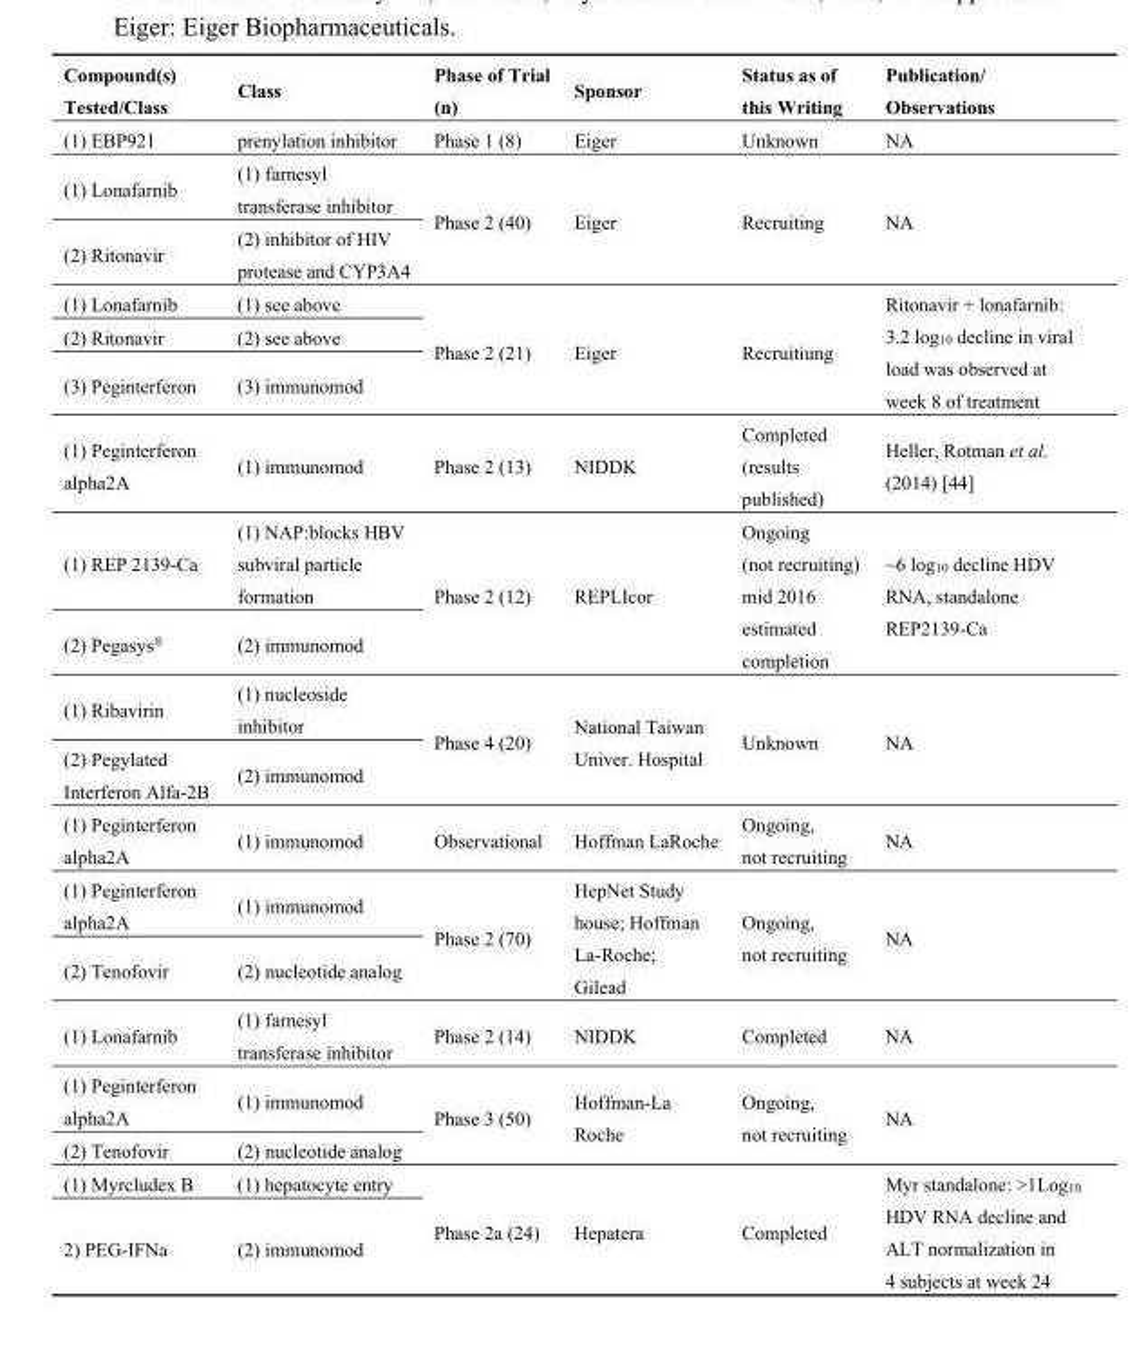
<table><thead><tr><td>Compound(s) Tested/Class</td><td>Class</td><td>Phase of Trial (n)</td><td>Sponsor</td><td>Status as of this Writing</td><td>Publication/ Observations</td></tr></thead><tbody><tr><td>(1) EBP921</td><td>prenylation inhibitor</td><td>Phase 1 (8)</td><td>Eiger</td><td>Unknown</td><td>NA</td></tr><tr><td>(1) Lonafarnib</td><td>(1) farnesyl transferase inhibitor</td><td rowspan="2">Phase 2 (40)</td><td rowspan="2">Eiger</td><td rowspan="2">Recruiting</td><td rowspan="2">NA</td></tr><tr><td>(2) Ritonavir</td><td>(2) inhibitor of HIV protease and CYP3A4</td></tr><tr><td>(1) Lonafarnib</td><td>(1) see above</td><td rowspan="3">Phase 2 (21)</td><td rowspan="3">Eiger</td><td rowspan="3">Recruitiung</td><td rowspan="3">Ritonavir + lonafarnib: 3.2 log<sub>10</sub> decline in viral load was observed at week 8 of treatment</td></tr><tr><td>(2) Ritonavir</td><td>(2) see above</td></tr><tr><td>(3) Peginterferon</td><td>(3) immunomod</td></tr><tr><td>(1) Peginterferon alpha2A</td><td>(1) immunomod</td><td>Phase 2 (13)</td><td>NIDDK</td><td>Completed (results published)</td><td>Heller, Rotman et al. (2014) [44]</td></tr><tr><td>(1) REP 2139-Ca</td><td>(1) NAP:blocks HBV subviral particle formation</td><td rowspan="2">Phase 2 (12)</td><td rowspan="2">REPLIcor</td><td rowspan="2">Ongoing (not recruiting) mid 2016 estimated completion</td><td rowspan="2">~6 log<sub>10</sub> decline HDV RNA, standalone REP2139-Ca</td></tr><tr><td>(2) Pegasys<sup>®</sup></td><td>(2) immunomod</td></tr><tr><td>(1) Ribavirin</td><td>(1) nucleoside inhibitor</td><td rowspan="2">Phase 4 (20)</td><td rowspan="2">National Taiwan Univer. Hospital</td><td rowspan="2">Unknown</td><td rowspan="2">NA</td></tr><tr><td>(2) Pegylated Interferon Alfa-2B</td><td>(2) immunomod</td></tr><tr><td>(1) Peginterferon alpha2A</td><td>(1) immunomod</td><td>Observational</td><td>Hoffman LaRoche</td><td>Ongoing, not recruiting</td><td>NA</td></tr><tr><td>(1) Peginterferon alpha2A</td><td>(1) immunomod</td><td rowspan="2">Phase 2 (70)</td><td rowspan="2">HepNet Study house; Hoffman La-Roche; Gilead</td><td rowspan="2">Ongoing, not recruiting</td><td rowspan="2">NA</td></tr><tr><td>(2) Tenofovir</td><td>(2) nucleotide analog</td></tr><tr><td>(1) Lonafarnib</td><td>(1) farnesyl transferase inhibitor</td><td>Phase 2 (14)</td><td>NIDDK</td><td>Completed</td><td>NA</td></tr><tr><td>(1) Peginterferon alpha2A</td><td>(1) immunomod</td><td rowspan="2">Phase 3 (50)</td><td rowspan="2">Hoffman-La Roche</td><td rowspan="2">Ongoing, not recruiting</td><td rowspan="2">NA</td></tr><tr><td>(2) Tenofovir</td><td>(2) nucleotide analog</td></tr><tr><td>(1) Myrcludex B</td><td>(1) hepatocyte entry</td><td rowspan="2">Phase 2a (24)</td><td rowspan="2">Hepatera</td><td rowspan="2">Completed</td><td rowspan="2">Myr standalone: &gt;1Log<sub>10</sub> HDV RNA decline and ALT normalization in 4 subjects at week 24</td></tr><tr><td>2) PEG-IFNa</td><td>(2) immunomod</td></tr></tbody></table>